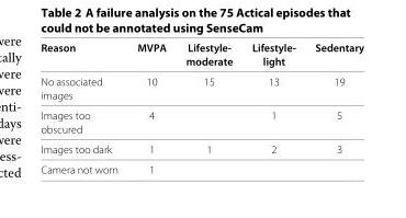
<table><thead><tr><td rowspan="2">Reason</td><td rowspan="2">MVPA</td><td rowspan="2">Lifestyle- moderate</td><td rowspan="2">Lifestyle- light</td><td rowspan="2">Sedentary</td></tr><tr></tr></thead><tbody><tr><td>No associated</td><td>10</td><td>15</td><td>13</td><td>19</td></tr><tr><td colspan="5">images</td></tr><tr><td>Images too</td><td>4</td><td></td><td>1</td><td>5</td></tr><tr><td colspan="5">obscured</td></tr><tr><td>Images too dark</td><td>1</td><td>1</td><td>2</td><td>3</td></tr><tr><td>Camera not worn</td><td>1</td><td></td><td></td><td></td></tr></tbody></table>